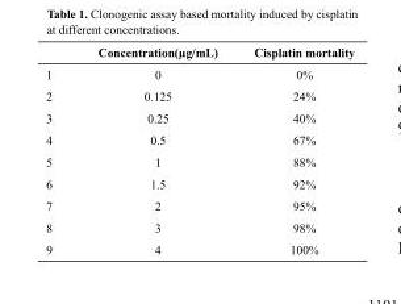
<table><thead><tr><td></td><td>Concentration(µg/mL)</td><td>Cisplatin mortality</td></tr></thead><tbody><tr><td>1</td><td>0</td><td>0%</td></tr><tr><td>2</td><td>0.125</td><td>24%</td></tr><tr><td>3</td><td>0.25</td><td>40%</td></tr><tr><td>4</td><td>0.5</td><td>67%</td></tr><tr><td>5</td><td>1</td><td>88%</td></tr><tr><td>6</td><td>1.5</td><td>92%</td></tr><tr><td>7</td><td>2</td><td>95%</td></tr><tr><td>8</td><td>3</td><td>98%</td></tr><tr><td>9</td><td>4</td><td>100%</td></tr></tbody></table>